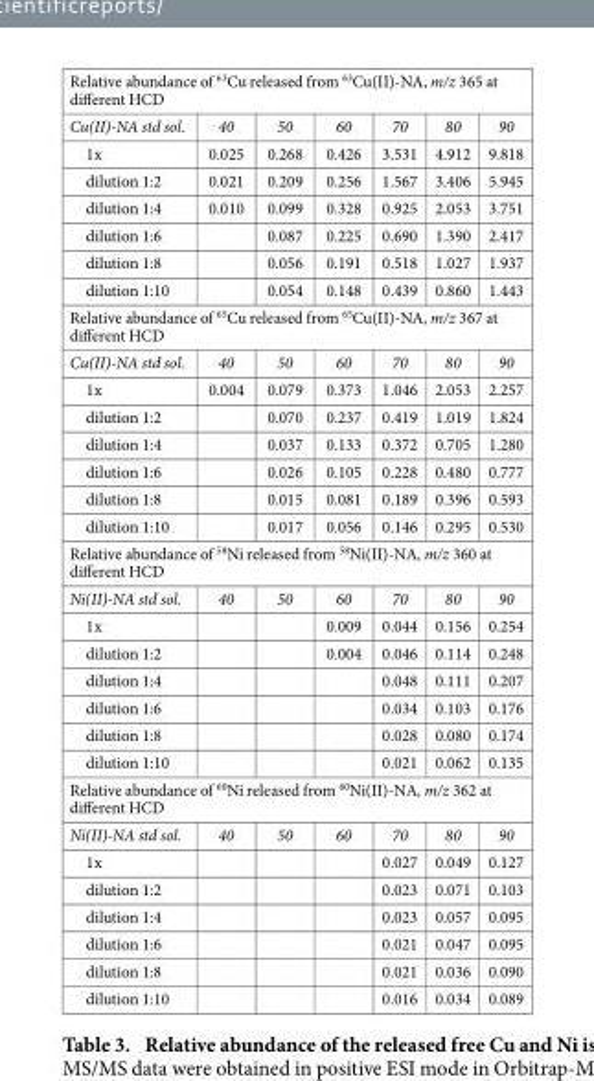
<table><tbody><tr><td colspan="7">Relative abundance of <sup>63</sup>Cu released from <sup>63</sup>Cu(II)-NA, m/z 365 at different HCD</td></tr><tr><td>Cu(II)-NA std sol.</td><td>40</td><td>50</td><td>60</td><td>70</td><td>80</td><td>90</td></tr><tr><td>1x</td><td>0.025</td><td>0.268</td><td>0.426</td><td>3.531</td><td>4.912</td><td>9.818</td></tr><tr><td>dilution 1:2</td><td>0.021</td><td>0.209</td><td>0.256</td><td>1.567</td><td>3.406</td><td>5.945</td></tr><tr><td>dilution 1:4</td><td>0.010</td><td>0.099</td><td>0.328</td><td>0.925</td><td>2.053</td><td>3.751</td></tr><tr><td>dilution 1:6</td><td></td><td>0.087</td><td>0.225</td><td>0.690</td><td>1.390</td><td>2.417</td></tr><tr><td>dilution 1:8</td><td></td><td>0.056</td><td>0.191</td><td>0.518</td><td>1.027</td><td>1.937</td></tr><tr><td>dilution 1:10</td><td></td><td>0.054</td><td>0.148</td><td>0.439</td><td>0.860</td><td>1.443</td></tr><tr><td colspan="7">Relative abundance of <sup>65</sup>Cu released from <sup>65</sup>Cu(II)-NA, m/z 367 at different HCD</td></tr><tr><td>Cu(II)-NA std sol.</td><td>40</td><td>50</td><td>60</td><td>70</td><td>80</td><td>90</td></tr><tr><td>1x</td><td>0.004</td><td>0.079</td><td>0.373</td><td>1.046</td><td>2.053</td><td>2.257</td></tr><tr><td>dilution 1:2</td><td></td><td>0.070</td><td>0.237</td><td>0.419</td><td>1.019</td><td>1.824</td></tr><tr><td>dilution 1:4</td><td></td><td>0.037</td><td>0.133</td><td>0.372</td><td>0.705</td><td>1.280</td></tr><tr><td>dilution 1:6</td><td></td><td>0.026</td><td>0.105</td><td>0.228</td><td>0.480</td><td>0.777</td></tr><tr><td>dilution 1:8</td><td></td><td>0.015</td><td>0.081</td><td>0.189</td><td>0.396</td><td>0.593</td></tr><tr><td>dilution 1:10</td><td></td><td>0.017</td><td>0.056</td><td>0.146</td><td>0.295</td><td>0.530</td></tr><tr><td colspan="7">Relative abundance of <sup>58</sup>Ni released from <sup>58</sup>Ni(II)-NA, m/z 360 at different HCD</td></tr><tr><td>Ni(II)-NA std sol.</td><td>40</td><td>50</td><td>60</td><td>70</td><td>80</td><td>90</td></tr><tr><td>1x</td><td></td><td></td><td>0.009</td><td>0.044</td><td>0.156</td><td>0.254</td></tr><tr><td>dilution 1:2</td><td></td><td></td><td>0.004</td><td>0.046</td><td>0.114</td><td>0.248</td></tr><tr><td>dilution 1:4</td><td></td><td></td><td></td><td>0.048</td><td>0.111</td><td>0.207</td></tr><tr><td>dilution 1:6</td><td></td><td></td><td></td><td>0.034</td><td>0.103</td><td>0.176</td></tr><tr><td>dilution 1:8</td><td></td><td></td><td></td><td>0.028</td><td>0.080</td><td>0.174</td></tr><tr><td>dilution 1:10</td><td></td><td></td><td></td><td>0.021</td><td>0.062</td><td>0.135</td></tr><tr><td colspan="7">Relative abundance of <sup>60</sup>Ni released from <sup>60</sup>Ni(II)-NA, m/z 362 at different HCD</td></tr><tr><td>Ni(II)-NA std sol.</td><td>40</td><td>50</td><td>60</td><td>70</td><td>80</td><td>90</td></tr><tr><td>1x</td><td></td><td></td><td></td><td>0.027</td><td>0.049</td><td>0.127</td></tr><tr><td>dilution 1:2</td><td></td><td></td><td></td><td>0.023</td><td>0.071</td><td>0.103</td></tr><tr><td>dilution 1:4</td><td></td><td></td><td></td><td>0.023</td><td>0.057</td><td>0.095</td></tr><tr><td>dilution 1:6</td><td></td><td></td><td></td><td>0.021</td><td>0.047</td><td>0.095</td></tr><tr><td>dilution 1:8</td><td></td><td></td><td></td><td>0.021</td><td>0.036</td><td>0.090</td></tr><tr><td>dilution 1:10</td><td></td><td></td><td></td><td>0.016</td><td>0.034</td><td>0.089</td></tr></tbody></table>